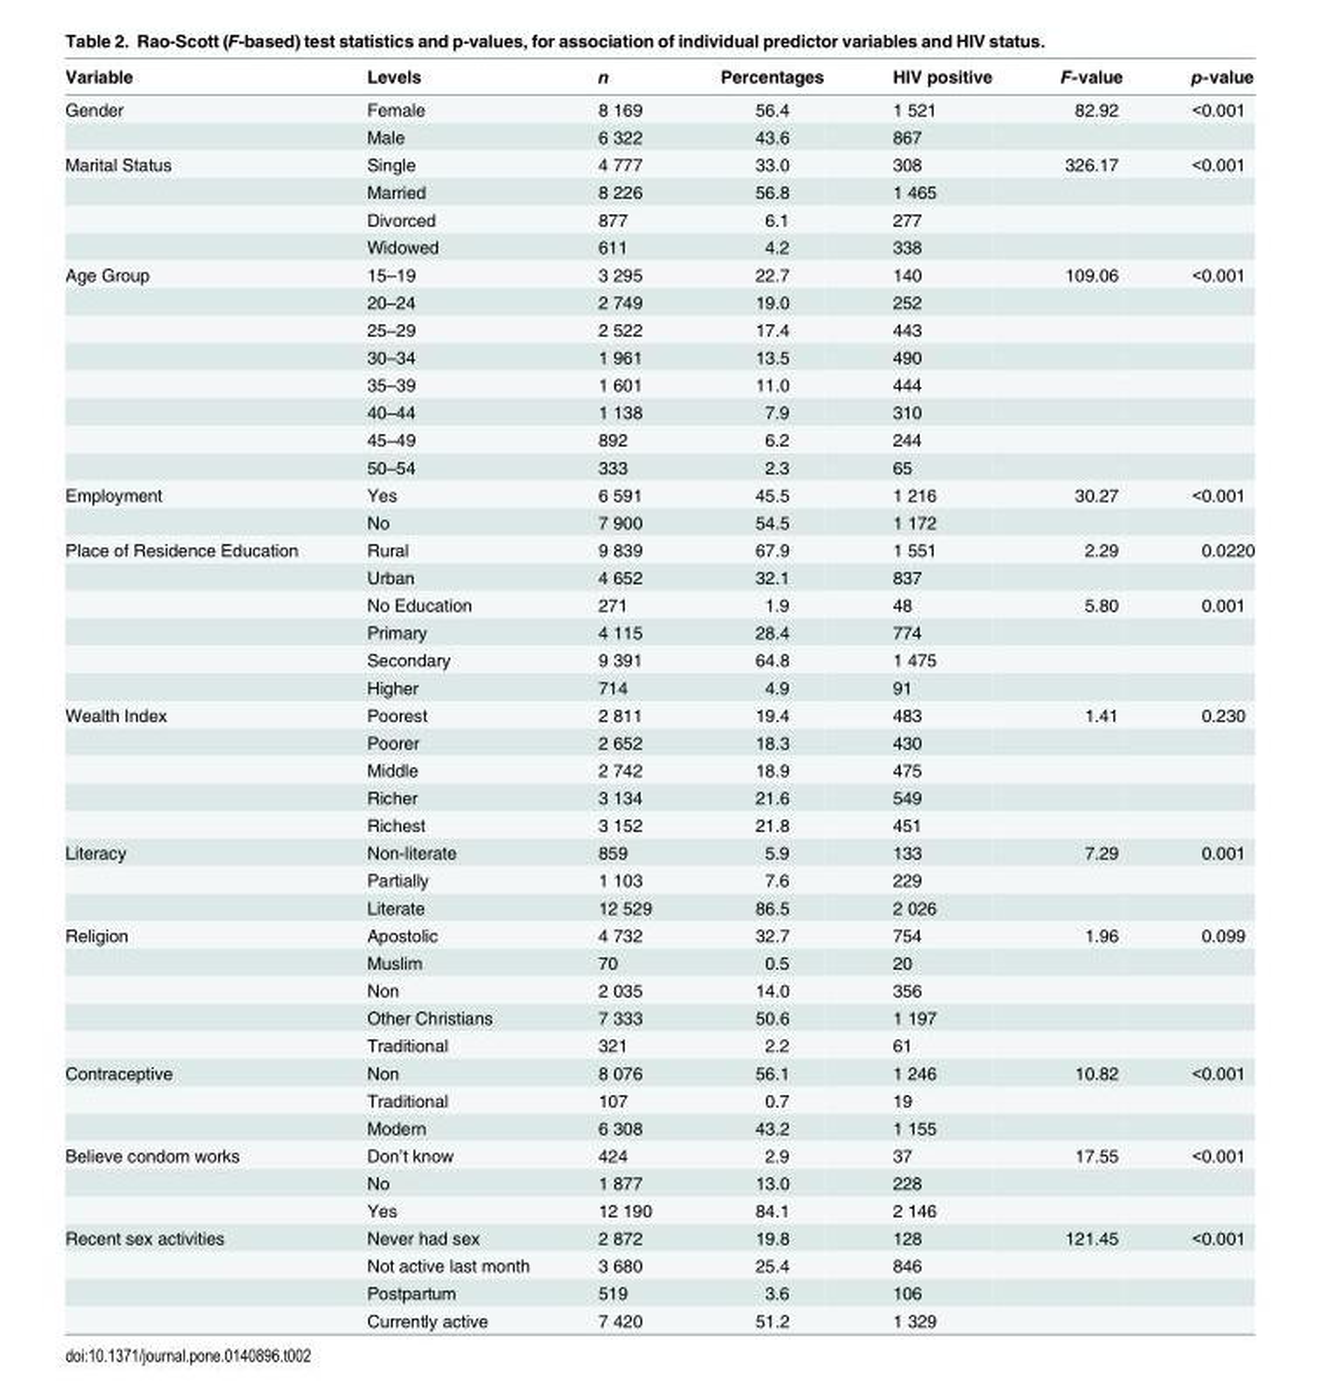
<table><thead><tr><td>Variable</td><td>Levels</td><td>n</td><td>Percentages</td><td>HIV positive</td><td>F-value</td><td>p-value</td></tr></thead><tbody><tr><td rowspan="2">Gender</td><td>Female</td><td>8 169</td><td>56.4</td><td>1 521</td><td>82.92</td><td>&lt;0.001</td></tr><tr><td>Male</td><td>6 322</td><td>43.6</td><td>867</td><td></td><td></td></tr><tr><td rowspan="4">Marital Status</td><td>Single</td><td>4 777</td><td>33.0</td><td>308</td><td>326.17</td><td>&lt;0.001</td></tr><tr><td>Married</td><td>8 226</td><td>56.8</td><td>1 465</td><td></td><td></td></tr><tr><td>Divorced</td><td>877</td><td>6.1</td><td>277</td><td></td><td></td></tr><tr><td>Widowed</td><td>611</td><td>4.2</td><td>338</td><td></td><td></td></tr><tr><td rowspan="8">Age Group</td><td>15–19</td><td>3 295</td><td>22.7</td><td>140</td><td>109.06</td><td>&lt;0.001</td></tr><tr><td>20–24</td><td>2 749</td><td>19.0</td><td>252</td><td></td><td></td></tr><tr><td>25–29</td><td>2 522</td><td>17.4</td><td>443</td><td></td><td></td></tr><tr><td>30–34</td><td>1 961</td><td>13.5</td><td>490</td><td></td><td></td></tr><tr><td>35–39</td><td>1 601</td><td>11.0</td><td>444</td><td></td><td></td></tr><tr><td>40–44</td><td>1 138</td><td>7.9</td><td>310</td><td></td><td></td></tr><tr><td>45–49</td><td>892</td><td>6.2</td><td>244</td><td></td><td></td></tr><tr><td>50–54</td><td>333</td><td>2.3</td><td>65</td><td></td><td></td></tr><tr><td rowspan="2">Employment</td><td>Yes</td><td>6 591</td><td>45.5</td><td>1 216</td><td>30.27</td><td>&lt;0.001</td></tr><tr><td>No</td><td>7 900</td><td>54.5</td><td>1 172</td><td></td><td></td></tr><tr><td rowspan="6">Place of Residence Education</td><td>Rural</td><td>9 839</td><td>67.9</td><td>1 551</td><td>2.29</td><td>0.0220</td></tr><tr><td>Urban</td><td>4 652</td><td>32.1</td><td>837</td><td></td><td></td></tr><tr><td>No Education</td><td>271</td><td>1.9</td><td>48</td><td>5.80</td><td>0.001</td></tr><tr><td>Primary</td><td>4 115</td><td>28.4</td><td>774</td><td></td><td></td></tr><tr><td>Secondary</td><td>9 391</td><td>64.8</td><td>1 475</td><td></td><td></td></tr><tr><td>Higher</td><td>714</td><td>4.9</td><td>91</td><td></td><td></td></tr><tr><td rowspan="5">Wealth Index</td><td>Poorest</td><td>2 811</td><td>19.4</td><td>483</td><td>1.41</td><td>0.230</td></tr><tr><td>Poorer</td><td>2 652</td><td>18.3</td><td>430</td><td></td><td></td></tr><tr><td>Middle</td><td>2 742</td><td>18.9</td><td>475</td><td></td><td></td></tr><tr><td>Richer</td><td>3 134</td><td>21.6</td><td>549</td><td></td><td></td></tr><tr><td>Richest</td><td>3 152</td><td>21.8</td><td>451</td><td></td><td></td></tr><tr><td rowspan="3">Literacy</td><td>Non-literate</td><td>859</td><td>5.9</td><td>133</td><td>7.29</td><td>0.001</td></tr><tr><td>Partially</td><td>1 103</td><td>7.6</td><td>229</td><td></td><td></td></tr><tr><td>Literate</td><td>12 529</td><td>86.5</td><td>2 026</td><td></td><td></td></tr><tr><td rowspan="5">Religion</td><td>Apostolic</td><td>4 732</td><td>32.7</td><td>754</td><td>1.96</td><td>0.099</td></tr><tr><td>Muslim</td><td>70</td><td>0.5</td><td>20</td><td></td><td></td></tr><tr><td>Non</td><td>2 035</td><td>14.0</td><td>356</td><td></td><td></td></tr><tr><td>Other Christians</td><td>7 333</td><td>50.6</td><td>1 197</td><td></td><td></td></tr><tr><td>Traditional</td><td>321</td><td>2.2</td><td>61</td><td></td><td></td></tr><tr><td rowspan="3">Contraceptive</td><td>Non</td><td>8 076</td><td>56.1</td><td>1 246</td><td>10.82</td><td>&lt;0.001</td></tr><tr><td>Traditional</td><td>107</td><td>0.7</td><td>19</td><td></td><td></td></tr><tr><td>Modern</td><td>6 308</td><td>43.2</td><td>1 155</td><td></td><td></td></tr><tr><td rowspan="3">Believe condom works</td><td>Don’t know</td><td>424</td><td>2.9</td><td>37</td><td>17.55</td><td>&lt;0.001</td></tr><tr><td>No</td><td>1 877</td><td>13.0</td><td>228</td><td></td><td></td></tr><tr><td>Yes</td><td>12 190</td><td>84.1</td><td>2 146</td><td></td><td></td></tr><tr><td rowspan="4">Recent sex activities</td><td>Never had sex</td><td>2 872</td><td>19.8</td><td>128</td><td>121.45</td><td>&lt;0.001</td></tr><tr><td>Not active last month</td><td>3 680</td><td>25.4</td><td>846</td><td></td><td></td></tr><tr><td>Postpartum</td><td>519</td><td>3.6</td><td>106</td><td></td><td></td></tr><tr><td>Currently active</td><td>7 420</td><td>51.2</td><td>1 329</td><td></td><td></td></tr></tbody></table>